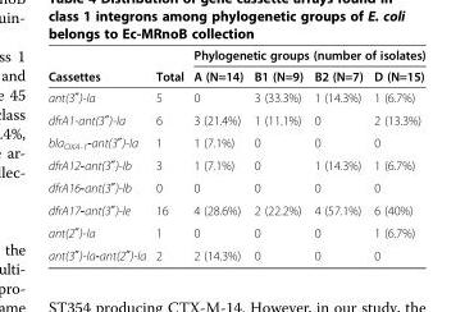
<table><thead><tr><td rowspan="2">Cassettes</td><td rowspan="2">Total</td><td colspan="4">Phylogenetic groups (number of isolates)</td></tr><tr><td>A (N=14)</td><td>B1 (N=9)</td><td>B2 (N=7)</td><td>D (N=15)</td></tr></thead><tbody><tr><td>ant(3″)-Ia</td><td>5</td><td>0</td><td>3 (33.3%)</td><td>1 (14.3%)</td><td>1 (6.7%)</td></tr><tr><td>dfrA1-ant(3″)-Ia</td><td>6</td><td>3 (21.4%)</td><td>1 (11.1%)</td><td>0</td><td>2 (13.3%)</td></tr><tr><td>bla<sub>OXA-1</sub>-ant(3″)-Ia</td><td>1</td><td>1 (7.1%)</td><td>0</td><td>0</td><td>0</td></tr><tr><td>dfrA12-ant(3″)-Ib</td><td>3</td><td>1 (7.1%)</td><td>0</td><td>1 (14.3%)</td><td>1 (6.7%)</td></tr><tr><td>dfrA16-ant(3″)-Ib</td><td>0</td><td>0</td><td>0</td><td>0</td><td>0</td></tr><tr><td>dfrA17-ant(3″)-Ie</td><td>16</td><td>4 (28.6%)</td><td>2 (22.2%)</td><td>4 (57.1%)</td><td>6 (40%)</td></tr><tr><td>ant(2″)-Ia</td><td>1</td><td>0</td><td>0</td><td>0</td><td>1 (6.7%)</td></tr><tr><td>ant(3″)-Ia-ant(2″)-Ia</td><td>2</td><td>2 (14.3%)</td><td>0</td><td>0</td><td>0</td></tr></tbody></table>